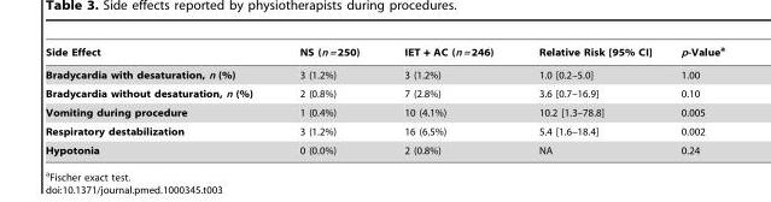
<table><thead><tr><td>Side Effect</td><td>NS (n = 250)</td><td>IET + AC (n = 246)</td><td>Relative Risk [95% CI]</td><td>p-Value<sup>a</sup></td></tr></thead><tbody><tr><td>Bradycardia with desaturation, n (%)</td><td>3 (1.2%)</td><td>3 (1.2%)</td><td>1.0 [0.2–5.0]</td><td>1.00</td></tr><tr><td>Bradycardia without desaturation, n (%)</td><td>2 (0.8%)</td><td>7 (2.8%)</td><td>3.6 [0.7–16.9]</td><td>0.10</td></tr><tr><td>Vomiting during procedure</td><td>1 (0.4%)</td><td>10 (4.1%)</td><td>10.2 [1.3–78.8]</td><td>0.005</td></tr><tr><td>Respiratory destabilization</td><td>3 (1.2%)</td><td>16 (6.5%)</td><td>5.4 [1.6–18.4]</td><td>0.002</td></tr><tr><td>Hypotonia</td><td>0 (0.0%)</td><td>2 (0.8%)</td><td>NA</td><td>0.24</td></tr></tbody></table>